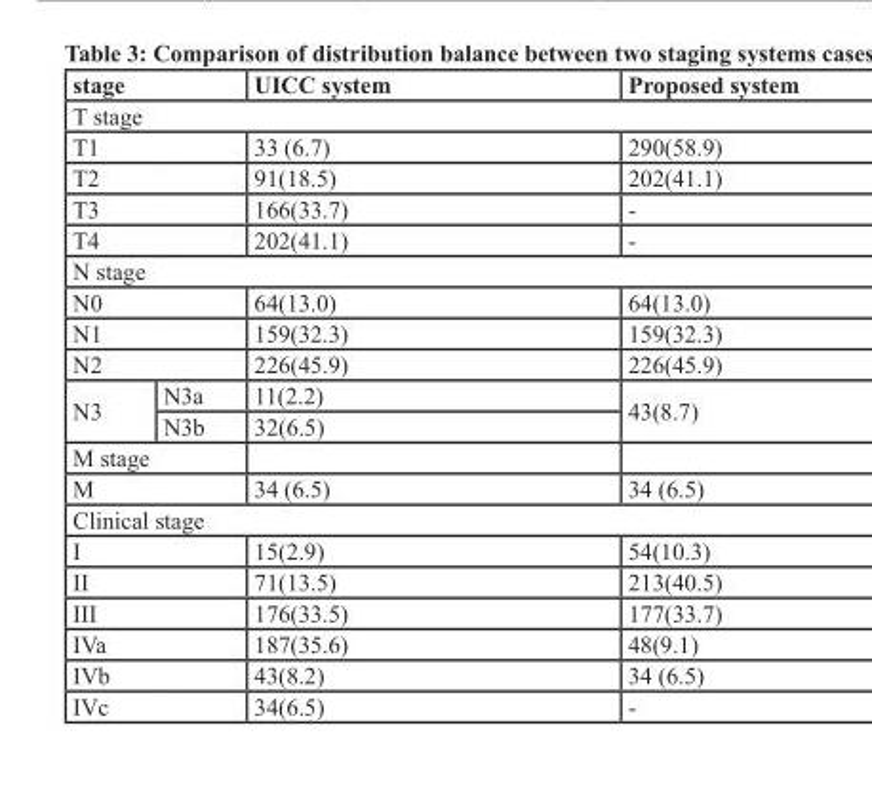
<table><thead><tr><td colspan="2">stage</td><td>UICC system</td><td>Proposed system</td></tr></thead><tbody><tr><td colspan="4">T stage</td></tr><tr><td colspan="2">T1</td><td>33 (6.7)</td><td>290(58.9)</td></tr><tr><td colspan="2">T2</td><td>91(18.5)</td><td>202(41.1)</td></tr><tr><td colspan="2">T3</td><td>166(33.7)</td><td>-</td></tr><tr><td colspan="2">T4</td><td>202(41.1)</td><td>-</td></tr><tr><td colspan="4">N stage</td></tr><tr><td colspan="2">N0</td><td>64(13.0)</td><td>64(13.0)</td></tr><tr><td colspan="2">N1</td><td>159(32.3)</td><td>159(32.3)</td></tr><tr><td colspan="2">N2</td><td>226(45.9)</td><td>226(45.9)</td></tr><tr><td rowspan="2">N3</td><td>N3a</td><td>11(2.2)</td><td rowspan="2">43(8.7)</td></tr><tr><td>N3b</td><td>32(6.5)</td></tr><tr><td colspan="4">M stage</td></tr><tr><td colspan="2">M</td><td>34 (6.5)</td><td>34 (6.5)</td></tr><tr><td colspan="4">Clinical stage</td></tr><tr><td colspan="2">I</td><td>15(2.9)</td><td>54(10.3)</td></tr><tr><td colspan="2">II</td><td>71(13.5)</td><td>213(40.5)</td></tr><tr><td colspan="2">III</td><td>176(33.5)</td><td>177(33.7)</td></tr><tr><td colspan="2">IVa</td><td>187(35.6)</td><td>48(9.1)</td></tr><tr><td colspan="2">IVb</td><td>43(8.2)</td><td>34 (6.5)</td></tr><tr><td colspan="2">IVc</td><td>34(6.5)</td><td>-</td></tr></tbody></table>